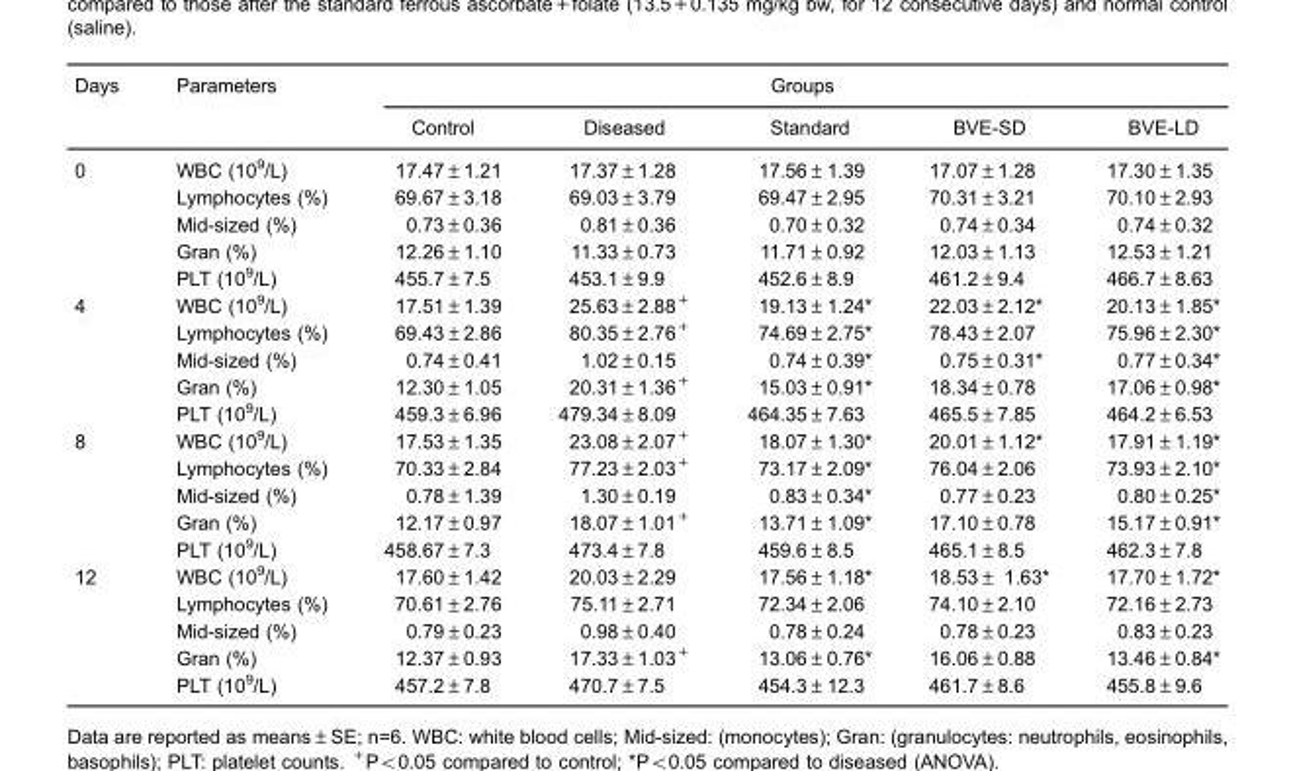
<table><thead><tr><td rowspan="2">Days</td><td rowspan="2">Parameters</td><td colspan="5">Groups</td></tr><tr><td>Control</td><td>Diseased</td><td>Standard</td><td>BVE-SD</td><td>BVE-LD</td></tr></thead><tbody><tr><td rowspan="5">0</td><td>WBC (10<sup>9</sup>/L)</td><td>17.47±1.21</td><td>17.37±1.28</td><td>17.56±1.39</td><td>17.07±1.28</td><td>17.30±1.35</td></tr><tr><td>Lymphocytes (%)</td><td>69.67±3.18</td><td>69.03±3.79</td><td>69.47±2.95</td><td>70.31±3.21</td><td>70.10±2.93</td></tr><tr><td>Mid-sized (%)</td><td>0.73±0.36</td><td>0.81±0.36</td><td>0.70±0.32</td><td>0.74±0.34</td><td>0.74±0.32</td></tr><tr><td>Gran (%)</td><td>12.26±1.10</td><td>11.33±0.73</td><td>11.71±0.92</td><td>12.03±1.13</td><td>12.53±1.21</td></tr><tr><td>PLT (10<sup>9</sup>/L)</td><td>455.7±7.5</td><td>453.1±9.9</td><td>452.6±8.9</td><td>461.2±9.4</td><td>466.7±8.63</td></tr><tr><td rowspan="5">4</td><td>WBC (10<sup>9</sup>/L)</td><td>17.51±1.39</td><td>25.63±2.88<sup>+</sup></td><td>19.13±1.24*</td><td>22.03±2.12*</td><td>20.13±1.85*</td></tr><tr><td>Lymphocytes (%)</td><td>69.43±2.86</td><td>80.35±2.76<sup>+</sup></td><td>74.69±2.75*</td><td>78.43±2.07</td><td>75.96±2.30*</td></tr><tr><td>Mid-sized (%)</td><td>0.74±0.41</td><td>1.02±0.15</td><td>0.74±0.39*</td><td>0.75±0.31*</td><td>0.77±0.34*</td></tr><tr><td>Gran (%)</td><td>12.30±1.05</td><td>20.31±1.36<sup>+</sup></td><td>15.03±0.91*</td><td>18.34±0.78</td><td>17.06±0.98*</td></tr><tr><td>PLT (10<sup>9</sup>/L)</td><td>459.3±6.96</td><td>479.34±8.09</td><td>464.35±7.63</td><td>465.5±7.85</td><td>464.2±6.53</td></tr><tr><td rowspan="5">8</td><td>WBC (10<sup>9</sup>/L)</td><td>17.53±1.35</td><td>23.08±2.07<sup>+</sup></td><td>18.07±1.30*</td><td>20.01±1.12*</td><td>17.91±1.19*</td></tr><tr><td>Lymphocytes (%)</td><td>70.33±2.84</td><td>77.23±2.03<sup>+</sup></td><td>73.17±2.09*</td><td>76.04±2.06</td><td>73.93±2.10*</td></tr><tr><td>Mid-sized (%)</td><td>0.78±1.39</td><td>1.30±0.19</td><td>0.83±0.34*</td><td>0.77±0.23</td><td>0.80±0.25*</td></tr><tr><td>Gran (%)</td><td>12.17±0.97</td><td>18.07±1.01<sup>+</sup></td><td>13.71±1.09*</td><td>17.10±0.78</td><td>15.17±0.91*</td></tr><tr><td>PLT (10<sup>9</sup>/L)</td><td>458.67±7.3</td><td>473.4±7.8</td><td>459.6±8.5</td><td>465.1±8.5</td><td>462.3±7.8</td></tr><tr><td rowspan="5">12</td><td>WBC (10<sup>9</sup>/L)</td><td>17.60±1.42</td><td>20.03±2.29</td><td>17.56±1.18*</td><td>18.53± 1.63*</td><td>17.70±1.72*</td></tr><tr><td>Lymphocytes (%)</td><td>70.61±2.76</td><td>75.11±2.71</td><td>72.34±2.06</td><td>74.10±2.10</td><td>72.16±2.73</td></tr><tr><td>Mid-sized (%)</td><td>0.79±0.23</td><td>0.98±0.40</td><td>0.78±0.24</td><td>0.78±0.23</td><td>0.83±0.23</td></tr><tr><td>Gran (%)</td><td>12.37±0.93</td><td>17.33±1.03<sup>+</sup></td><td>13.06±0.76*</td><td>16.06±0.88</td><td>13.46±0.84*</td></tr><tr><td>PLT (10<sup>9</sup>/L)</td><td>457.2±7.8</td><td>470.7±7.5</td><td>454.3±12.3</td><td>461.7±8.6</td><td>455.8±9.6</td></tr></tbody></table>